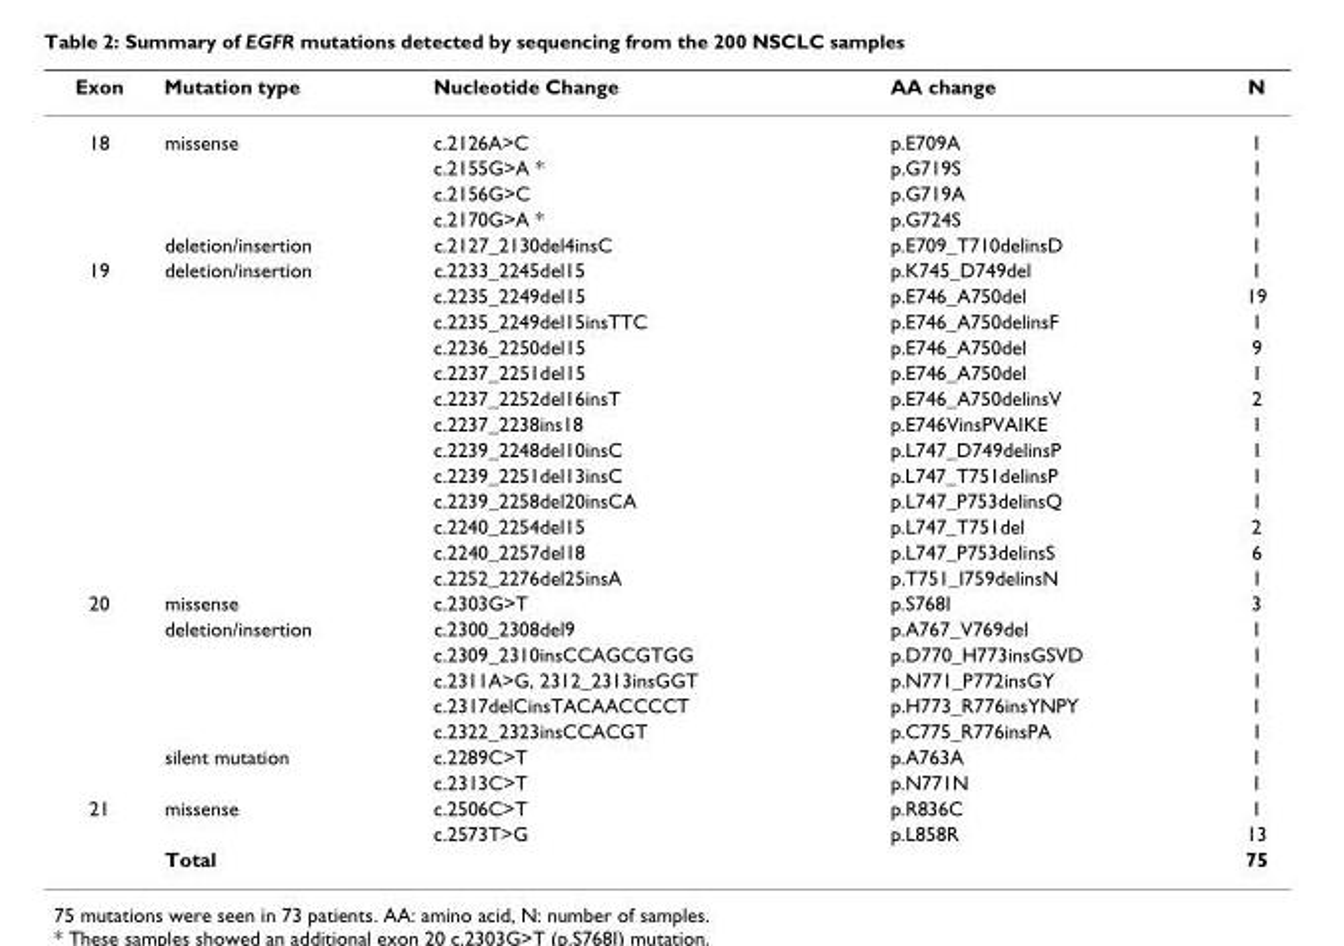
<table><thead><tr><td>Exon</td><td>Mutation type</td><td>Nucleotide Change</td><td>AA change</td><td>N</td></tr></thead><tbody><tr><td rowspan="5">18</td><td>missense</td><td>c.2126A&gt;C</td><td>p.E709A</td><td>1</td></tr><tr><td></td><td>c.2155G&gt;A *</td><td>p.G719S</td><td>1</td></tr><tr><td></td><td>c.2156G&gt;C</td><td>p.G719A</td><td>1</td></tr><tr><td></td><td>c.2170G&gt;A *</td><td>p.G724S</td><td>1</td></tr><tr><td>deletion/insertion</td><td>c.2127_2130del4insC</td><td>p.E709_T710delinsD</td><td>1</td></tr><tr><td rowspan="13">19</td><td>deletion/insertion</td><td>c.2233_2245del15</td><td>p.K745_D749del</td><td>1</td></tr><tr><td></td><td>c.2235_2249del15</td><td>p.E746_A750del</td><td>19</td></tr><tr><td></td><td>c.2235_2249del15insTTC</td><td>p.E746_A750delinsF</td><td>1</td></tr><tr><td></td><td>c.2236_2250del15</td><td>p.E746_A750del</td><td>9</td></tr><tr><td></td><td>c.2237_2251del15</td><td>p.E746_A750del</td><td>1</td></tr><tr><td></td><td>c.2237_2252del16insT</td><td>p.E746_A750delinsV</td><td>2</td></tr><tr><td></td><td>c.2237_2238ins18</td><td>p.E746VinsPVAIKE</td><td>1</td></tr><tr><td></td><td>c.2239_2248del10insC</td><td>p.L747_D749delinsP</td><td>1</td></tr><tr><td></td><td>c.2239_2251del13insC</td><td>p.L747_T751delinsP</td><td>1</td></tr><tr><td></td><td>c.2239_2258del20insCA</td><td>p.L747_P753delinsQ</td><td>1</td></tr><tr><td></td><td>c.2240_2254del15</td><td>p.L747_T751del</td><td>2</td></tr><tr><td></td><td>c.2240_2257del18</td><td>p.L747_P753delinsS</td><td>6</td></tr><tr><td></td><td>c.2252_2276del25insA</td><td>p.T751_I759delinsN</td><td>1</td></tr><tr><td rowspan="8">20</td><td>missense</td><td>c.2303G&gt;T</td><td>p.S768I</td><td>3</td></tr><tr><td>deletion/insertion</td><td>c.2300_2308del9</td><td>p.A767_V769del</td><td>1</td></tr><tr><td></td><td>c.2309_2310insCCAGCGTGG</td><td>p.D770_H773insGSVD</td><td>1</td></tr><tr><td></td><td>c.2311A&gt;G, 2312_2313insGGT</td><td>p.N771_P772insGY</td><td>1</td></tr><tr><td></td><td>c.2317delCinsTACAACCCCT</td><td>p.H773_R776insYNPY</td><td>1</td></tr><tr><td></td><td>c.2322_2323insCCACGT</td><td>p.C775_R776insPA</td><td>1</td></tr><tr><td>silent mutation</td><td>c.2289C&gt;T</td><td>p.A763A</td><td>1</td></tr><tr><td></td><td>c.2313C&gt;T</td><td>p.N771N</td><td>1</td></tr><tr><td rowspan="3">21</td><td>missense</td><td>c.2506C&gt;T</td><td>p.R836C</td><td>1</td></tr><tr><td></td><td>c.2573T&gt;G</td><td>p.L858R</td><td>13</td></tr><tr><td>Total</td><td></td><td></td><td>75</td></tr></tbody></table>